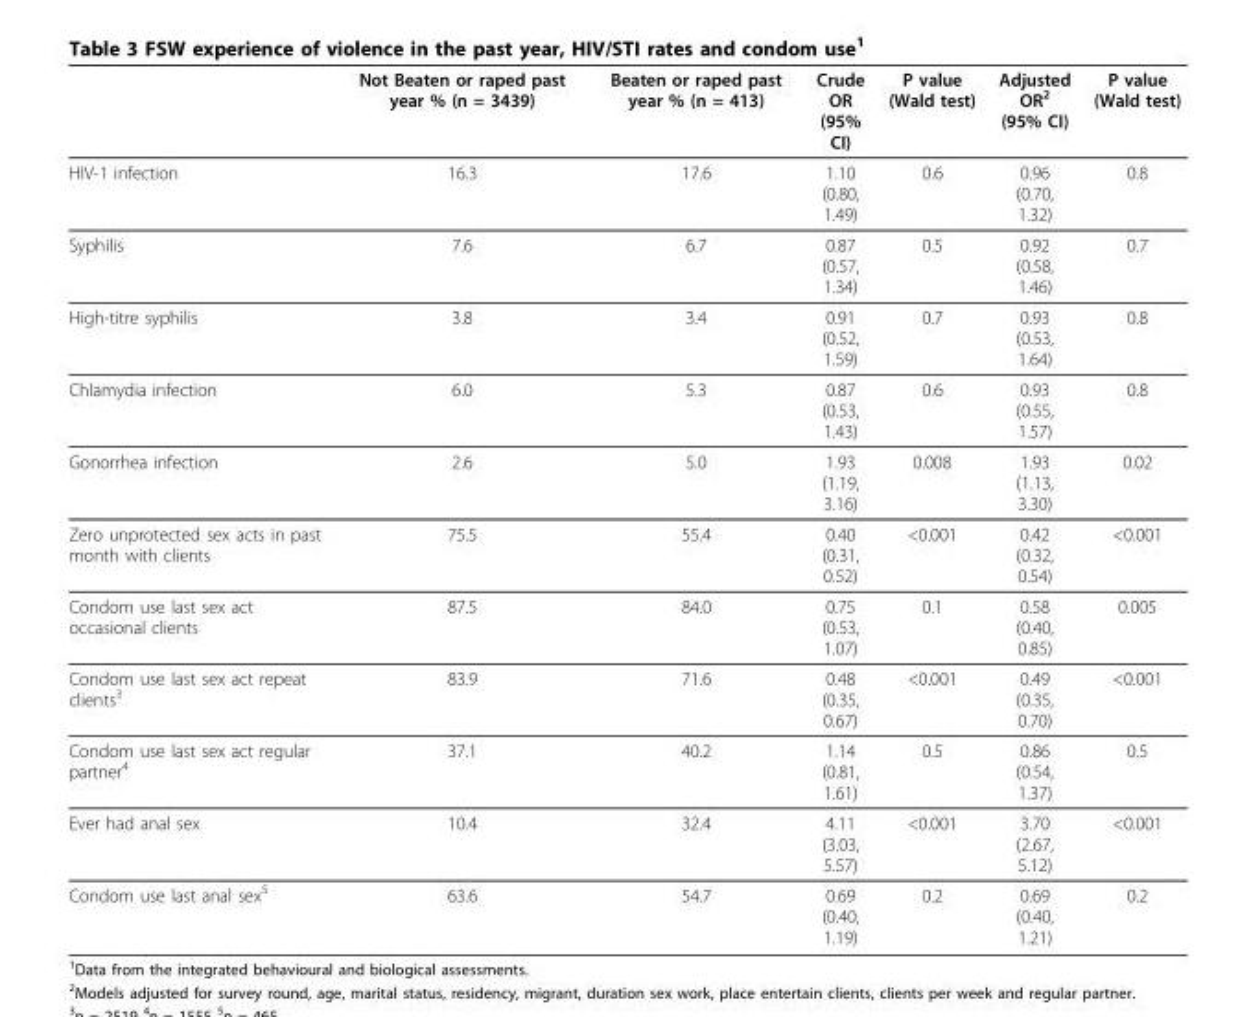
<table><thead><tr><td></td><td>Not Beaten or raped past year % (n = 3439)</td><td>Beaten or raped past year % (n = 413)</td><td>Crude OR (95% CI)</td><td>P value (Wald test)</td><td>Adjusted OR<sup>2</sup> (95% CI)</td><td>P value (Wald test)</td></tr></thead><tbody><tr><td>HIV-1 infection</td><td>16.3</td><td>17.6</td><td>1.10 (0.80, 1.49)</td><td>0.6</td><td>0.96 (0.70, 1.32)</td><td>0.8</td></tr><tr><td>Syphilis</td><td>7.6</td><td>6.7</td><td>0.87 (0.57, 1.34)</td><td>0.5</td><td>0.92 (0.58, 1.46)</td><td>0.7</td></tr><tr><td>High-titre syphilis</td><td>3.8</td><td>3.4</td><td>0.91 (0.52, 1.59)</td><td>0.7</td><td>0.93 (0.53, 1.64)</td><td>0.8</td></tr><tr><td>Chlamydia infection</td><td>6.0</td><td>5.3</td><td>0.87 (0.53, 1.43)</td><td>0.6</td><td>0.93 (0.55, 1.57)</td><td>0.8</td></tr><tr><td>Gonorrhea infection</td><td>2.6</td><td>5.0</td><td>1.93 (1.19, 3.16)</td><td>0.008</td><td>1.93 (1.13, 3.30)</td><td>0.02</td></tr><tr><td>Zero unprotected sex acts in past month with clients</td><td>75.5</td><td>55.4</td><td>0.40 (0.31, 0.52)</td><td>&lt;0.001</td><td>0.42 (0.32, 0.54)</td><td>&lt;0.001</td></tr><tr><td>Condom use last sex act occasional clients</td><td>87.5</td><td>84.0</td><td>0.75 (0.53, 1.07)</td><td>0.1</td><td>0.58 (0.40, 0.85)</td><td>0.005</td></tr><tr><td>Condom use last sex act repeat clients<sup>3</sup></td><td>83.9</td><td>71.6</td><td>0.48 (0.35, 0.67)</td><td>&lt;0.001</td><td>0.49 (0.35, 0.70)</td><td>&lt;0.001</td></tr><tr><td>Condom use last sex act regular partner<sup>4</sup></td><td>37.1</td><td>40.2</td><td>1.14 (0.81, 1.61)</td><td>0.5</td><td>0.86 (0.54, 1.37)</td><td>0.5</td></tr><tr><td>Ever had anal sex</td><td>10.4</td><td>32.4</td><td>4.11 (3.03, 5.57)</td><td>&lt;0.001</td><td>3.70 (2.67, 5.12)</td><td>&lt;0.001</td></tr><tr><td>Condom use last anal sex<sup>5</sup></td><td>63.6</td><td>54.7</td><td>0.69 (0.40, 1.19)</td><td>0.2</td><td>0.69 (0.40, 1.21)</td><td>0.2</td></tr></tbody></table>